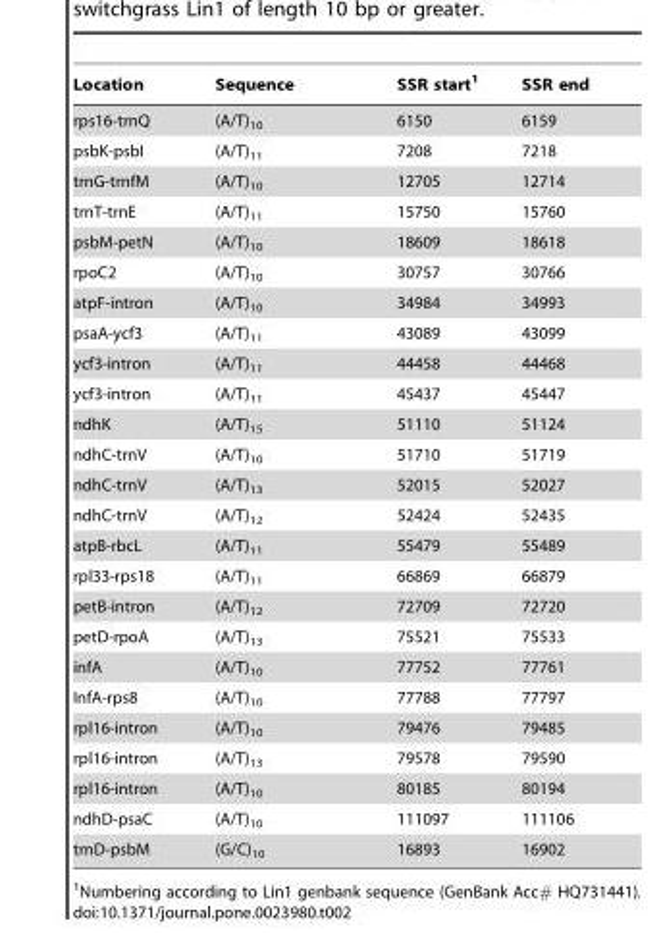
<table><thead><tr><td>Location</td><td>Sequence</td><td>SSR start<sup>1</sup></td><td>SSR end</td></tr></thead><tbody><tr><td>rps16-trnQ</td><td>(A/T)<sub>10</sub></td><td>6150</td><td>6159</td></tr><tr><td>psbK-psbI</td><td>(A/T)<sub>11</sub></td><td>7208</td><td>7218</td></tr><tr><td>trnG-trnfM</td><td>(A/T)<sub>10</sub></td><td>12705</td><td>12714</td></tr><tr><td>trnT-trnE</td><td>(A/T)<sub>11</sub></td><td>15750</td><td>15760</td></tr><tr><td>psbM-petN</td><td>(A/T)<sub>10</sub></td><td>18609</td><td>18618</td></tr><tr><td>rpoC2</td><td>(A/T)<sub>10</sub></td><td>30757</td><td>30766</td></tr><tr><td>atpF-intron</td><td>(A/T)<sub>10</sub></td><td>34984</td><td>34993</td></tr><tr><td>psaA-ycf3</td><td>(A/T)<sub>11</sub></td><td>43089</td><td>43099</td></tr><tr><td>ycf3-intron</td><td>(A/T)<sub>11</sub></td><td>44458</td><td>44468</td></tr><tr><td>ycf3-intron</td><td>(A/T)<sub>11</sub></td><td>45437</td><td>45447</td></tr><tr><td>ndhK</td><td>(A/T)<sub>15</sub></td><td>51110</td><td>51124</td></tr><tr><td>ndhC-trnV</td><td>(A/T)<sub>10</sub></td><td>51710</td><td>51719</td></tr><tr><td>ndhC-trnV</td><td>(A/T)<sub>13</sub></td><td>52015</td><td>52027</td></tr><tr><td>ndhC-trnV</td><td>(A/T)<sub>12</sub></td><td>52424</td><td>52435</td></tr><tr><td>atpB-rbcL</td><td>(A/T)<sub>11</sub></td><td>55479</td><td>55489</td></tr><tr><td>rpl33-rps18</td><td>(A/T)<sub>11</sub></td><td>66869</td><td>66879</td></tr><tr><td>petB-intron</td><td>(A/T)<sub>12</sub></td><td>72709</td><td>72720</td></tr><tr><td>petD-rpoA</td><td>(A/T)<sub>13</sub></td><td>75521</td><td>75533</td></tr><tr><td>infA</td><td>(A/T)<sub>10</sub></td><td>77752</td><td>77761</td></tr><tr><td>InfA-rps8</td><td>(A/T)<sub>10</sub></td><td>77788</td><td>77797</td></tr><tr><td>rpl16-intron</td><td>(A/T)<sub>10</sub></td><td>79476</td><td>79485</td></tr><tr><td>rpl16-intron</td><td>(A/T)<sub>13</sub></td><td>79578</td><td>79590</td></tr><tr><td>rpl16-intron</td><td>(A/T)<sub>10</sub></td><td>80185</td><td>80194</td></tr><tr><td>ndhD-psaC</td><td>(A/T)<sub>10</sub></td><td>111097</td><td>111106</td></tr><tr><td>trnD-psbM</td><td>(G/C)<sub>10</sub></td><td>16893</td><td>16902</td></tr></tbody></table>